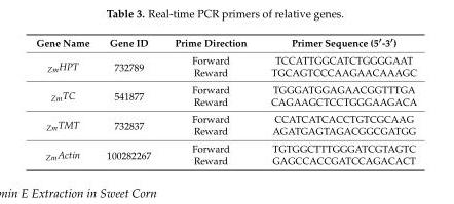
<table><thead><tr><td>Gene Name</td><td>Gene ID</td><td>Prime Direction</td><td>Primer Sequence (5′-3′)</td></tr></thead><tbody><tr><td rowspan="2"><sub>Zm</sub>HPT</td><td rowspan="2">732789</td><td>Forward</td><td>TCCATTGGCATCTGGGGAAT</td></tr><tr><td>Reward</td><td>TGCAGTCCCAAGAACAAAGC</td></tr><tr><td rowspan="2"><sub>Zm</sub>TC</td><td rowspan="2">541877</td><td>Forward</td><td>TGGGATGGAGAACGGTTTGA</td></tr><tr><td>Reward</td><td>CAGAAGCTCCTGGGAAGACA</td></tr><tr><td rowspan="2"><sub>Zm</sub>TMT</td><td rowspan="2">732837</td><td>Forward</td><td>CCATCATCACCTGTCGCAAG</td></tr><tr><td>Reward</td><td>AGATGAGTAGACGGCGATGG</td></tr><tr><td rowspan="2"><sub>Zm</sub>Actin</td><td rowspan="2">100282267</td><td>Forward</td><td>TGTGGCTTTGGGATCGTAGTC</td></tr><tr><td>Reward</td><td>GAGCCACCGATCCAGACACT</td></tr></tbody></table>